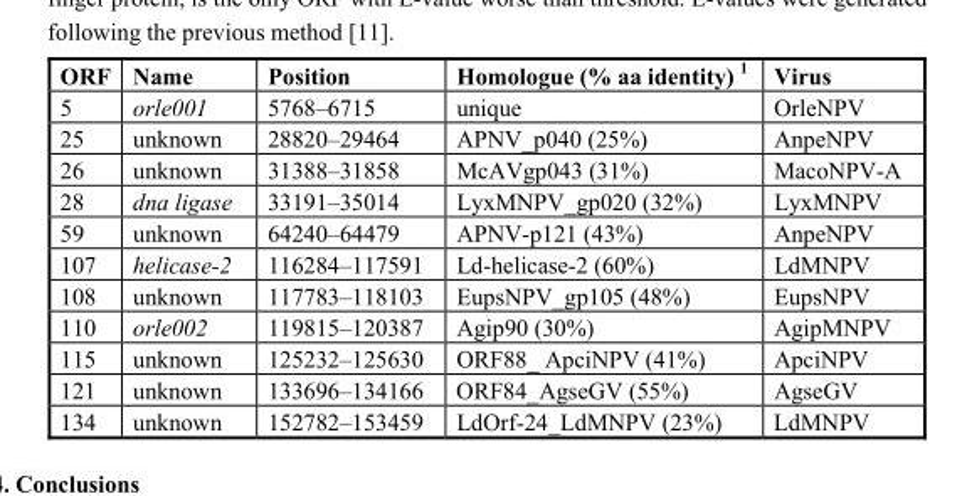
<table><thead><tr><td>ORF</td><td>Name</td><td>Position</td><td>Homologue (% aa identity) <sup>1</sup></td><td>Virus</td></tr></thead><tbody><tr><td>5</td><td>orle001</td><td>5768–6715</td><td>unique</td><td>OrleNPV</td></tr><tr><td>25</td><td>unknown</td><td>28820–29464</td><td>APNV_p040 (25%)</td><td>AnpeNPV</td></tr><tr><td>26</td><td>unknown</td><td>31388–31858</td><td>McAVgp043 (31%)</td><td>MacoNPV-A</td></tr><tr><td>28</td><td>dna ligase</td><td>33191–35014</td><td>LyxMNPV_gp020 (32%)</td><td>LyxMNPV</td></tr><tr><td>59</td><td>unknown</td><td>64240–64479</td><td>APNV-p121 (43%)</td><td>AnpeNPV</td></tr><tr><td>107</td><td>helicase-2</td><td>116284–117591</td><td>Ld-helicase-2 (60%)</td><td>LdMNPV</td></tr><tr><td>108</td><td>unknown</td><td>117783–118103</td><td>EupsNPV_gp105 (48%)</td><td>EupsNPV</td></tr><tr><td>110</td><td>orle002</td><td>119815–120387</td><td>Agip90 (30%)</td><td>AgipMNPV</td></tr><tr><td>115</td><td>unknown</td><td>125232–125630</td><td>ORF88_ ApciNPV (41%)</td><td>ApciNPV</td></tr><tr><td>121</td><td>unknown</td><td>133696–134166</td><td>ORF84_AgseGV (55%)</td><td>AgseGV</td></tr><tr><td>134</td><td>unknown</td><td>152782–153459</td><td>LdOrf-24_LdMNPV (23%)</td><td>LdMNPV</td></tr></tbody></table>